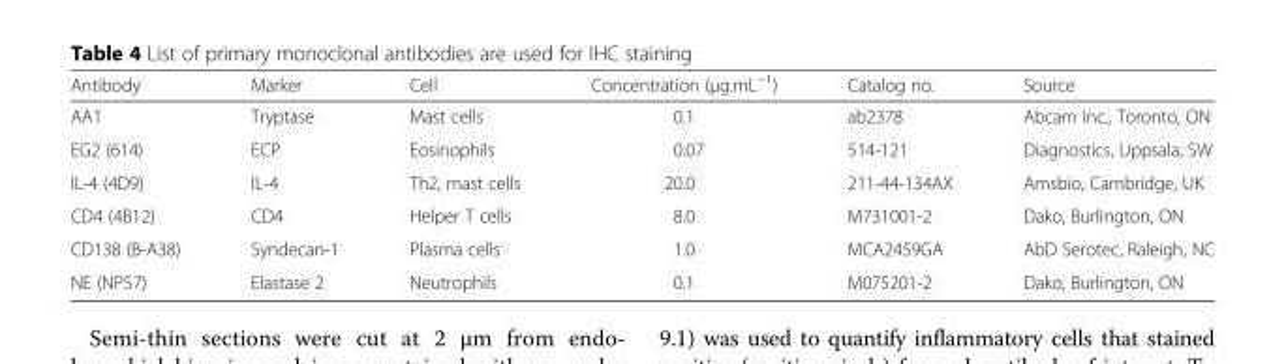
<table><thead><tr><td>Antibody</td><td>Marker</td><td>Cell</td><td>Concentration (μg.mL<sup>−1</sup>)</td><td>Catalog no.</td><td>Source</td></tr></thead><tbody><tr><td>AA1</td><td>Tryptase</td><td>Mast cells</td><td>0.1</td><td>ab2378</td><td>Abcam Inc., Toronto, ON</td></tr><tr><td>EG2 (614)</td><td>ECP</td><td>Eosinophils</td><td>0.07</td><td>514-121</td><td>Diagnostics, Uppsala, SW</td></tr><tr><td>IL-4 (4D9)</td><td>IL-4</td><td>Th2, mast cells</td><td>20.0</td><td>211-44-134AX</td><td>Amsbio, Cambridge, UK</td></tr><tr><td>CD4 (4B12)</td><td>CD4</td><td>Helper T cells</td><td>8.0</td><td>M731001-2</td><td>Dako, Burlington, ON</td></tr><tr><td>CD138 (B-A38)</td><td>Syndecan-1</td><td>Plasma cells</td><td>1.0</td><td>MCA2459GA</td><td>AbD Serotec, Raleigh, NC</td></tr><tr><td>NE (NP57)</td><td>Elastase 2</td><td>Neutrophils</td><td>0.1</td><td>M075201-2</td><td>Dako, Burlington, ON</td></tr></tbody></table>